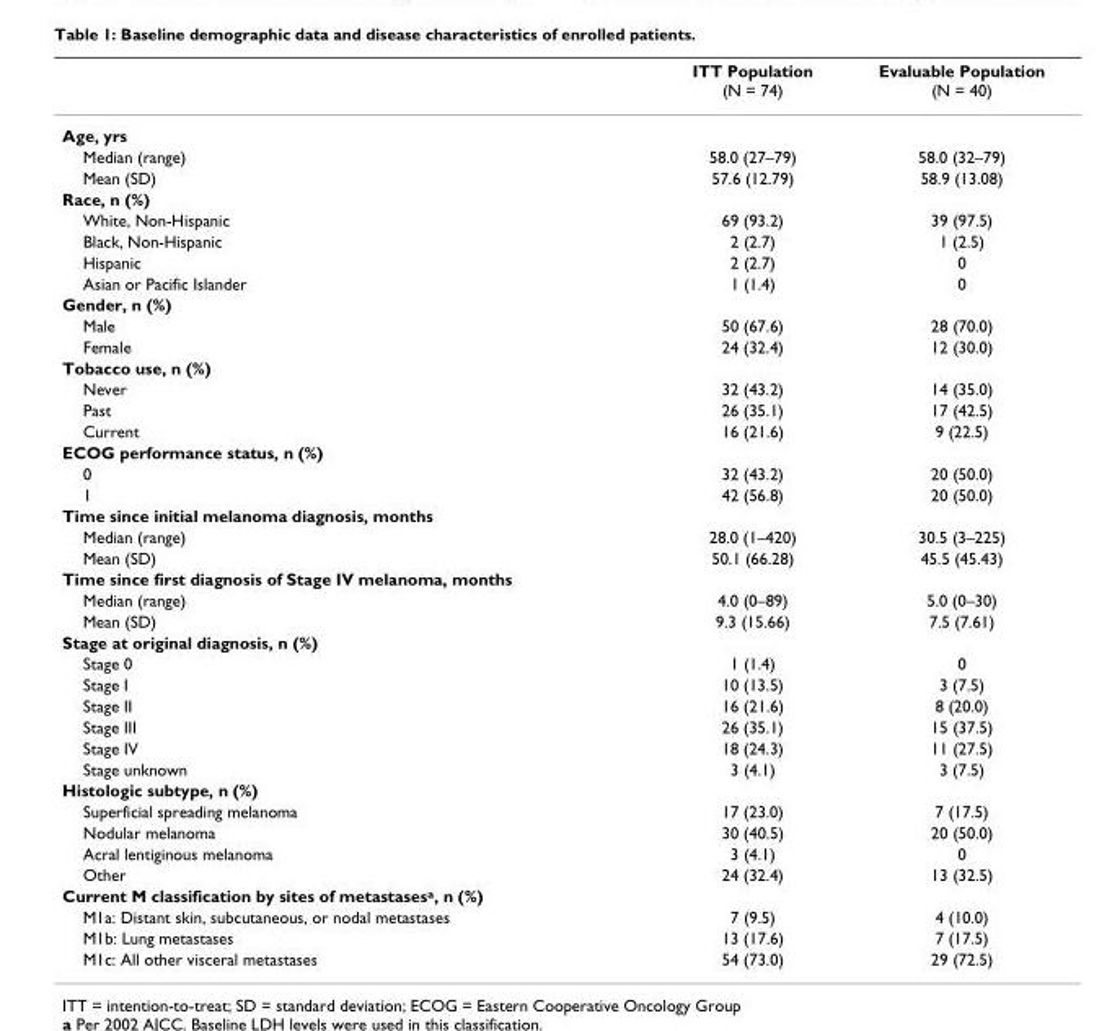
<table><thead><tr><td></td><td>ITT Population (N = 74)</td><td>Evaluable Population (N = 40)</td></tr></thead><tbody><tr><td colspan="3">Age, yrs</td></tr><tr><td>Median (range)</td><td>58.0 (27–79)</td><td>58.0 (32–79)</td></tr><tr><td>Mean (SD)</td><td>57.6 (12.79)</td><td>58.9 (13.08)</td></tr><tr><td colspan="3">Race, n (%)</td></tr><tr><td>White, Non-Hispanic</td><td>69 (93.2)</td><td>39 (97.5)</td></tr><tr><td>Black, Non-Hispanic</td><td>2 (2.7)</td><td>1 (2.5)</td></tr><tr><td>Hispanic</td><td>2 (2.7)</td><td>0</td></tr><tr><td>Asian or Pacific Islander</td><td>1 (1.4)</td><td>0</td></tr><tr><td colspan="3">Gender, n (%)</td></tr><tr><td>Male</td><td>50 (67.6)</td><td>28 (70.0)</td></tr><tr><td>Female</td><td>24 (32.4)</td><td>12 (30.0)</td></tr><tr><td colspan="3">Tobacco use, n (%)</td></tr><tr><td>Never</td><td>32 (43.2)</td><td>14 (35.0)</td></tr><tr><td>Past</td><td>26 (35.1)</td><td>17 (42.5)</td></tr><tr><td>Current</td><td>16 (21.6)</td><td>9 (22.5)</td></tr><tr><td colspan="3">ECOG performance status, n (%)</td></tr><tr><td>0</td><td>32 (43.2)</td><td>20 (50.0)</td></tr><tr><td>1</td><td>42 (56.8)</td><td>20 (50.0)</td></tr><tr><td colspan="3">Time since initial melanoma diagnosis, months</td></tr><tr><td>Median (range)</td><td>28.0 (1–420)</td><td>30.5 (3–225)</td></tr><tr><td>Mean (SD)</td><td>50.1 (66.28)</td><td>45.5 (45.43)</td></tr><tr><td colspan="3">Time since first diagnosis of Stage IV melanoma, months</td></tr><tr><td>Median (range)</td><td>4.0 (0–89)</td><td>5.0 (0–30)</td></tr><tr><td>Mean (SD)</td><td>9.3 (15.66)</td><td>7.5 (7.61)</td></tr><tr><td colspan="3">Stage at original diagnosis, n (%)</td></tr><tr><td>Stage 0</td><td>1 (1.4)</td><td>0</td></tr><tr><td>Stage I</td><td>10 (13.5)</td><td>3 (7.5)</td></tr><tr><td>Stage II</td><td>16 (21.6)</td><td>8 (20.0)</td></tr><tr><td>Stage III</td><td>26 (35.1)</td><td>15 (37.5)</td></tr><tr><td>Stage IV</td><td>18 (24.3)</td><td>11 (27.5)</td></tr><tr><td>Stage unknown</td><td>3 (4.1)</td><td>3 (7.5)</td></tr><tr><td colspan="3">Histologic subtype, n (%)</td></tr><tr><td>Superficial spreading melanoma</td><td>17 (23.0)</td><td>7 (17.5)</td></tr><tr><td>Nodular melanoma</td><td>30 (40.5)</td><td>20 (50.0)</td></tr><tr><td>Acral lentiginous melanoma</td><td>3 (4.1)</td><td>0</td></tr><tr><td>Other</td><td>24 (32.4)</td><td>13 (32.5)</td></tr><tr><td colspan="3">Current M classification by sites of metastases<sup>a</sup>, n (%)</td></tr><tr><td>M1a: Distant skin, subcutaneous, or nodal metastases</td><td>7 (9.5)</td><td>4 (10.0)</td></tr><tr><td>M1b: Lung metastases</td><td>13 (17.6)</td><td>7 (17.5)</td></tr><tr><td>M1c: All other visceral metastases</td><td>54 (73.0)</td><td>29 (72.5)</td></tr></tbody></table>